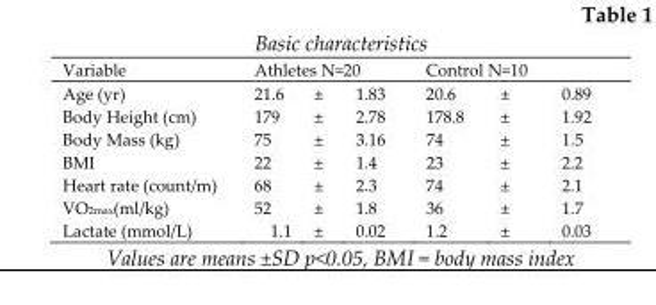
<table><thead><tr><td>Variable</td><td>Athletes N=20</td><td>Control N=10</td></tr></thead><tbody><tr><td>Age (yr)</td><td>21.6 ± 1.83</td><td>20.6 ± 0.89</td></tr><tr><td>Body Height (cm)</td><td>179 ± 2.78</td><td>178.8 ± 1.92</td></tr><tr><td>Body Mass (kg)</td><td>75 ± 3.16</td><td>74 ± 1.5</td></tr><tr><td>BMI</td><td>22 ± 1.4</td><td>23 ± 2.2</td></tr><tr><td>Heart rate (count/m)</td><td>68 ± 2.3</td><td>74 ± 2.1</td></tr><tr><td>VO<sub>2max</sub>(ml/kg)</td><td>52 ± 1.8</td><td>36 ± 1.7</td></tr><tr><td>Lactate (mmol/L)</td><td>1.1 ± 0.02</td><td>1.2 ± 0.03</td></tr></tbody></table>